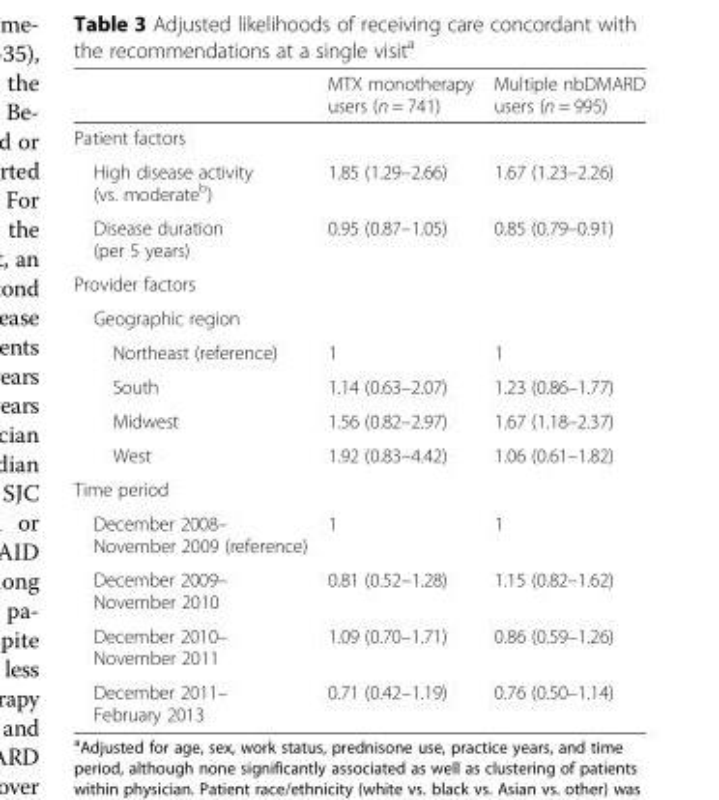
<table><thead><tr><td></td><td>MTX monotherapy users (n = 741)</td><td>Multiple nbDMARD users (n = 995)</td></tr></thead><tbody><tr><td colspan="3">Patient factors</td></tr><tr><td>High disease activity (vs. moderate<sup>b</sup>)</td><td>1.85 (1.29–2.66)</td><td>1.67 (1.23–2.26)</td></tr><tr><td>Disease duration (per 5 years)</td><td>0.95 (0.87–1.05)</td><td>0.85 (0.79–0.91)</td></tr><tr><td colspan="3">Provider factors</td></tr><tr><td colspan="3">Geographic region</td></tr><tr><td>Northeast (reference)</td><td>1</td><td>1</td></tr><tr><td>South</td><td>1.14 (0.63–2.07)</td><td>1.23 (0.86–1.77)</td></tr><tr><td>Midwest</td><td>1.56 (0.82–2.97)</td><td>1.67 (1.18–2.37)</td></tr><tr><td>West</td><td>1.92 (0.83–4.42)</td><td>1.06 (0.61–1.82)</td></tr><tr><td colspan="3">Time period</td></tr><tr><td>December 2008– November 2009 (reference)</td><td>1</td><td>1</td></tr><tr><td>December 2009– November 2010</td><td>0.81 (0.52–1.28)</td><td>1.15 (0.82–1.62)</td></tr><tr><td>December 2010– November 2011</td><td>1.09 (0.70–1.71)</td><td>0.86 (0.59–1.26)</td></tr><tr><td>December 2011– February 2013</td><td>0.71 (0.42–1.19)</td><td>0.76 (0.50–1.14)</td></tr></tbody></table>